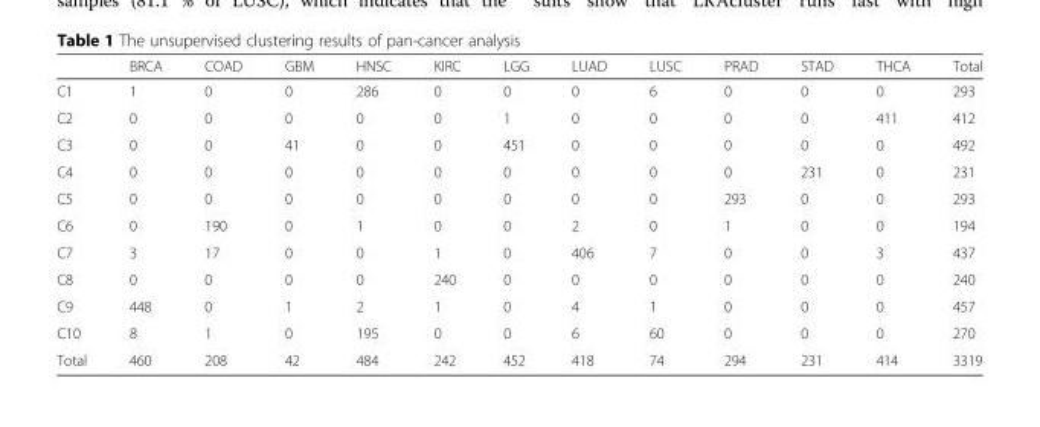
<table><thead><tr><td></td><td>BRCA</td><td>COAD</td><td>GBM</td><td>HNSC</td><td>KIRC</td><td>LGG</td><td>LUAD</td><td>LUSC</td><td>PRAD</td><td>STAD</td><td>THCA</td><td>Total</td></tr></thead><tbody><tr><td>C1</td><td>1</td><td>0</td><td>0</td><td>286</td><td>0</td><td>0</td><td>0</td><td>6</td><td>0</td><td>0</td><td>0</td><td>293</td></tr><tr><td>C2</td><td>0</td><td>0</td><td>0</td><td>0</td><td>0</td><td>1</td><td>0</td><td>0</td><td>0</td><td>0</td><td>411</td><td>412</td></tr><tr><td>C3</td><td>0</td><td>0</td><td>41</td><td>0</td><td>0</td><td>451</td><td>0</td><td>0</td><td>0</td><td>0</td><td>0</td><td>492</td></tr><tr><td>C4</td><td>0</td><td>0</td><td>0</td><td>0</td><td>0</td><td>0</td><td>0</td><td>0</td><td>0</td><td>231</td><td>0</td><td>231</td></tr><tr><td>C5</td><td>0</td><td>0</td><td>0</td><td>0</td><td>0</td><td>0</td><td>0</td><td>0</td><td>293</td><td>0</td><td>0</td><td>293</td></tr><tr><td>C6</td><td>0</td><td>190</td><td>0</td><td>1</td><td>0</td><td>0</td><td>2</td><td>0</td><td>1</td><td>0</td><td>0</td><td>194</td></tr><tr><td>C7</td><td>3</td><td>17</td><td>0</td><td>0</td><td>1</td><td>0</td><td>406</td><td>7</td><td>0</td><td>0</td><td>3</td><td>437</td></tr><tr><td>C8</td><td>0</td><td>0</td><td>0</td><td>0</td><td>240</td><td>0</td><td>0</td><td>0</td><td>0</td><td>0</td><td>0</td><td>240</td></tr><tr><td>C9</td><td>448</td><td>0</td><td>1</td><td>2</td><td>1</td><td>0</td><td>4</td><td>1</td><td>0</td><td>0</td><td>0</td><td>457</td></tr><tr><td>C10</td><td>8</td><td>1</td><td>0</td><td>195</td><td>0</td><td>0</td><td>6</td><td>60</td><td>0</td><td>0</td><td>0</td><td>270</td></tr><tr><td>Total</td><td>460</td><td>208</td><td>42</td><td>484</td><td>242</td><td>452</td><td>418</td><td>74</td><td>294</td><td>231</td><td>414</td><td>3319</td></tr></tbody></table>